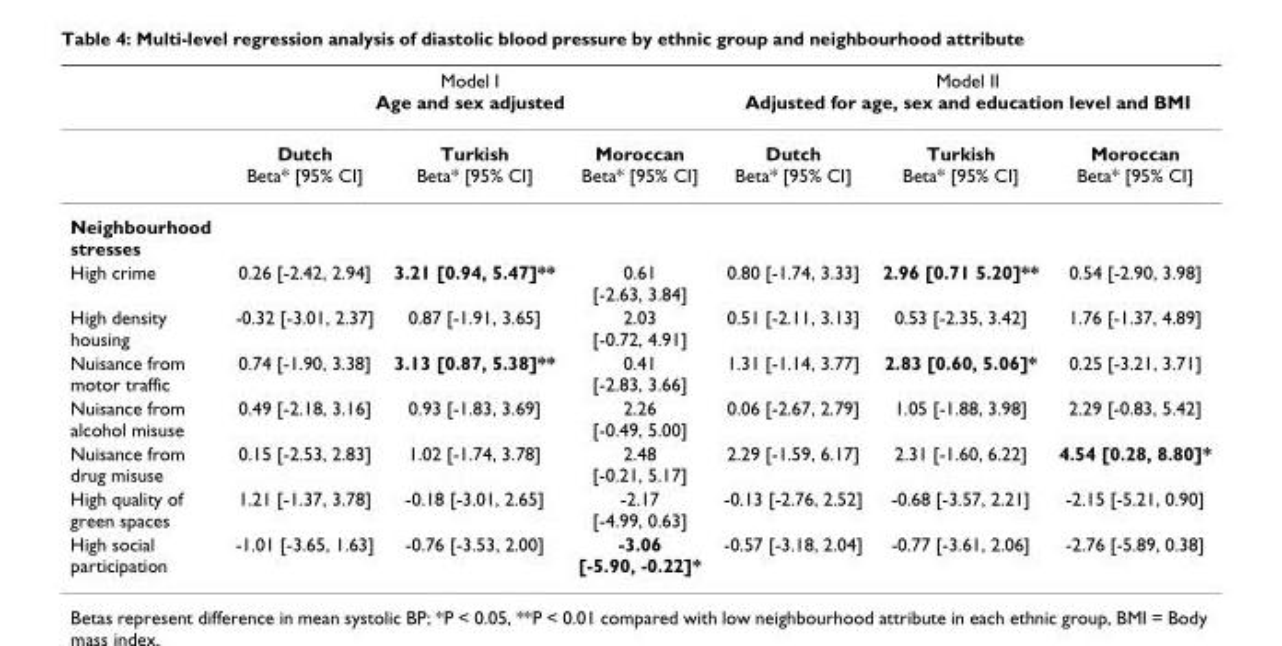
<table><thead><tr><td rowspan="2"></td><td colspan="3">Model I Age and sex adjusted</td><td colspan="3">Model II Adjusted for age, sex and education level and BMI</td></tr><tr><td>Dutch Beta* [95% CI]</td><td>Turkish Beta* [95% CI]</td><td>Moroccan Beta* [95% CI]</td><td>Dutch Beta* [95% CI]</td><td>Turkish Beta* [95% CI]</td><td>Moroccan Beta* [95% CI]</td></tr></thead><tbody><tr><td colspan="7">Neighbourhood stresses</td></tr><tr><td>High crime</td><td>0.26 [-2.42, 2.94]</td><td>3.21 [0.94, 5.47]**</td><td>0.61 [-2.63, 3.84]</td><td>0.80 [-1.74, 3.33]</td><td>2.96 [0.71 5.20]**</td><td>0.54 [-2.90, 3.98]</td></tr><tr><td>High density housing</td><td>-0.32 [-3.01, 2.37]</td><td>0.87 [-1.91, 3.65]</td><td>2.03 [-0.72, 4.91]</td><td>0.51 [-2.11, 3.13]</td><td>0.53 [-2.35, 3.42]</td><td>1.76 [-1.37, 4.89]</td></tr><tr><td>Nuisance from motor traffic</td><td>0.74 [-1.90, 3.38]</td><td>3.13 [0.87, 5.38]**</td><td>0.41 [-2.83, 3.66]</td><td>1.31 [-1.14, 3.77]</td><td>2.83 [0.60, 5.06]*</td><td>0.25 [-3.21, 3.71]</td></tr><tr><td>Nuisance from alcohol misuse</td><td>0.49 [-2.18, 3.16]</td><td>0.93 [-1.83, 3.69]</td><td>2.26 [-0.49, 5.00]</td><td>0.06 [-2.67, 2.79]</td><td>1.05 [-1.88, 3.98]</td><td>2.29 [-0.83, 5.42]</td></tr><tr><td>Nuisance from drug misuse</td><td>0.15 [-2.53, 2.83]</td><td>1.02 [-1.74, 3.78]</td><td>2.48 [-0.21, 5.17]</td><td>2.29 [-1.59, 6.17]</td><td>2.31 [-1.60, 6.22]</td><td>4.54 [0.28, 8.80]*</td></tr><tr><td>High quality of green spaces</td><td>1.21 [-1.37, 3.78]</td><td>-0.18 [-3.01, 2.65]</td><td>-2.17 [-4.99, 0.63]</td><td>-0.13 [-2.76, 2.52]</td><td>-0.68 [-3.57, 2.21]</td><td>-2.15 [-5.21, 0.90]</td></tr><tr><td>High social participation</td><td>-1.01 [-3.65, 1.63]</td><td>-0.76 [-3.53, 2.00]</td><td>-3.06 [-5.90, -0.22]*</td><td>-0.57 [-3.18, 2.04]</td><td>-0.77 [-3.61, 2.06]</td><td>-2.76 [-5.89, 0.38]</td></tr></tbody></table>